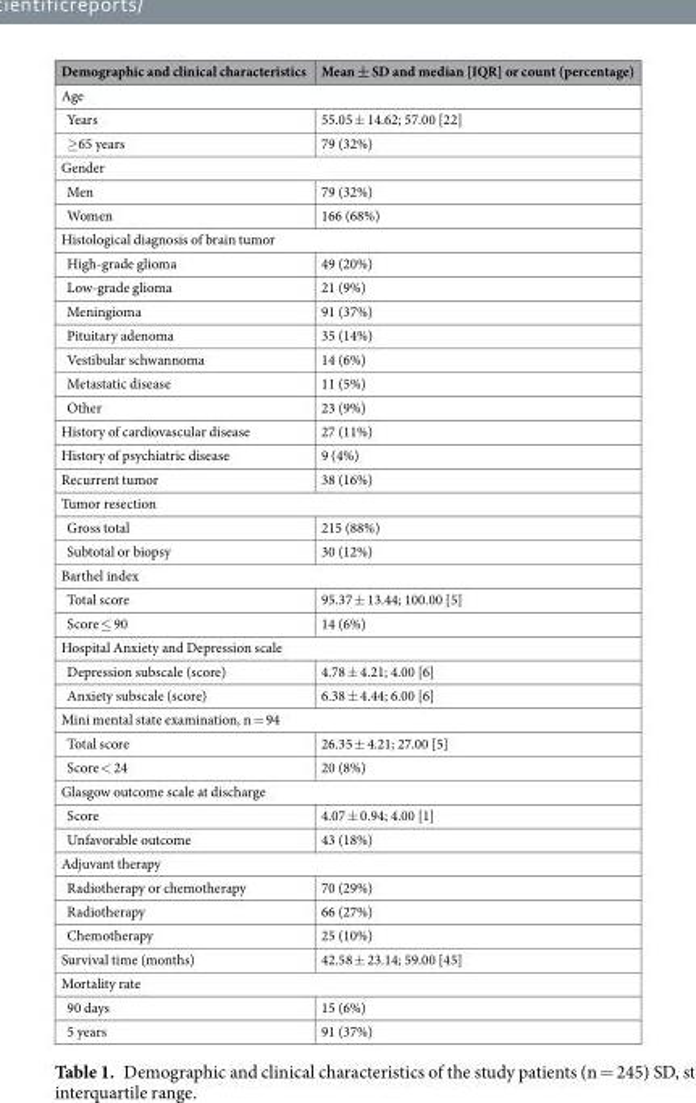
<table><thead><tr><td>Demographic and clinical characteristics</td><td>Mean ± SD and median [IQR] or count (percentage)</td></tr></thead><tbody><tr><td colspan="2">Age</td></tr><tr><td>Years</td><td>55.05 ± 14.62; 57.00 [22]</td></tr><tr><td>≥65 years</td><td>79 (32%)</td></tr><tr><td colspan="2">Gender</td></tr><tr><td>Men</td><td>79 (32%)</td></tr><tr><td>Women</td><td>166 (68%)</td></tr><tr><td colspan="2">Histological diagnosis of brain tumor</td></tr><tr><td>High-grade glioma</td><td>49 (20%)</td></tr><tr><td>Low-grade glioma</td><td>21 (9%)</td></tr><tr><td>Meningioma</td><td>91 (37%)</td></tr><tr><td>Pituitary adenoma</td><td>35 (14%)</td></tr><tr><td>Vestibular schwannoma</td><td>14 (6%)</td></tr><tr><td>Metastatic disease</td><td>11 (5%)</td></tr><tr><td>Other</td><td>23 (9%)</td></tr><tr><td>History of cardiovascular disease</td><td>27 (11%)</td></tr><tr><td>History of psychiatric disease</td><td>9 (4%)</td></tr><tr><td>Recurrent tumor</td><td>38 (16%)</td></tr><tr><td colspan="2">Tumor resection</td></tr><tr><td>Gross total</td><td>215 (88%)</td></tr><tr><td>Subtotal or biopsy</td><td>30 (12%)</td></tr><tr><td colspan="2">Barthel index</td></tr><tr><td>Total score</td><td>95.37 ± 13.44; 100.00 [5]</td></tr><tr><td>Score ≤ 90</td><td>14 (6%)</td></tr><tr><td colspan="2">Hospital Anxiety and Depression scale</td></tr><tr><td>Depression subscale (score)</td><td>4.78 ± 4.21; 4.00 [6]</td></tr><tr><td>Anxiety subscale (score)</td><td>6.38 ± 4.44; 6.00 [6]</td></tr><tr><td colspan="2">Mini mental state examination, n = 94</td></tr><tr><td>Total score</td><td>26.35 ± 4.21; 27.00 [5]</td></tr><tr><td>Score &lt; 24</td><td>20 (8%)</td></tr><tr><td colspan="2">Glasgow outcome scale at discharge</td></tr><tr><td>Score</td><td>4.07 ± 0.94; 4.00 [1]</td></tr><tr><td>Unfavorable outcome</td><td>43 (18%)</td></tr><tr><td colspan="2">Adjuvant therapy</td></tr><tr><td>Radiotherapy or chemotherapy</td><td>70 (29%)</td></tr><tr><td>Radiotherapy</td><td>66 (27%)</td></tr><tr><td>Chemotherapy</td><td>25 (10%)</td></tr><tr><td>Survival time (months)</td><td>42.58 ± 23.14; 59.00 [45]</td></tr><tr><td colspan="2">Mortality rate</td></tr><tr><td>90 days</td><td>15 (6%)</td></tr><tr><td>5 years</td><td>91 (37%)</td></tr></tbody></table>